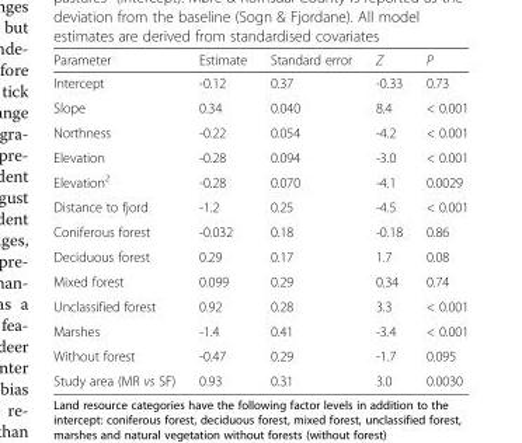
<table><thead><tr><td>Parameter</td><td>Estimate</td><td>Standard error</td><td>Z</td><td>P</td></tr></thead><tbody><tr><td>Intercept</td><td>-0.12</td><td>0.37</td><td>-0.33</td><td>0.73</td></tr><tr><td>Slope</td><td>0.34</td><td>0.040</td><td>8.4</td><td>&lt; 0.001</td></tr><tr><td>Northness</td><td>-0.22</td><td>0.054</td><td>-4.2</td><td>&lt; 0.001</td></tr><tr><td>Elevation</td><td>-0.28</td><td>0.094</td><td>-3.0</td><td>&lt; 0.001</td></tr><tr><td>Elevation<sup>2</sup></td><td>-0.28</td><td>0.070</td><td>-4.1</td><td>0.0029</td></tr><tr><td>Distance to fjord</td><td>-1.2</td><td>0.25</td><td>-4.5</td><td>&lt; 0.001</td></tr><tr><td>Coniferous forest</td><td>-0.032</td><td>0.18</td><td>-0.18</td><td>0.86</td></tr><tr><td>Deciduous forest</td><td>0.29</td><td>0.17</td><td>1.7</td><td>0.08</td></tr><tr><td>Mixed forest</td><td>0.099</td><td>0.29</td><td>0.34</td><td>0.74</td></tr><tr><td>Unclassified forest</td><td>0.92</td><td>0.28</td><td>3.3</td><td>&lt; 0.001</td></tr><tr><td>Marshes</td><td>-1.4</td><td>0.41</td><td>-3.4</td><td>&lt; 0.001</td></tr><tr><td>Without forest</td><td>-0.47</td><td>0.29</td><td>-1.7</td><td>0.095</td></tr><tr><td>Study area (MR vs SF)</td><td>0.93</td><td>0.31</td><td>3.0</td><td>0.0030</td></tr></tbody></table>